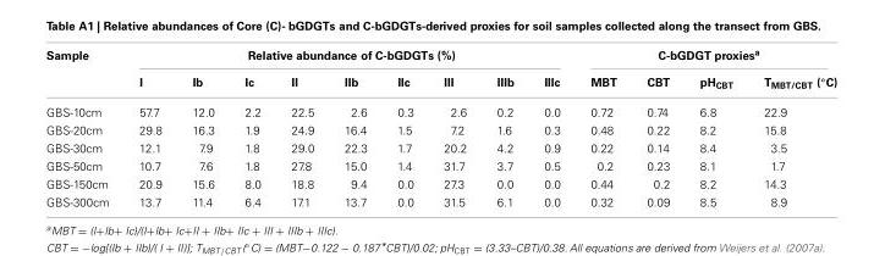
<table><thead><tr><td rowspan="2">Sample</td><td colspan="9">Relative abundance of C-bGDGTs (%)</td><td colspan="4">C-bGDGT proxies<sup>a</sup></td></tr><tr><td>I</td><td>Ib</td><td>Ic</td><td>II</td><td>IIb</td><td>IIc</td><td>III</td><td>IIIb</td><td>IIIc</td><td>MBT</td><td>CBT</td><td>pHCBT</td><td>TMBT/CBT (◦C)</td></tr></thead><tbody><tr><td>GBS-10cm</td><td>57.7</td><td>12.0</td><td>2.2</td><td>22.5</td><td>2.6</td><td>0.3</td><td>2.6</td><td>0.2</td><td>0.0</td><td>0.72</td><td>0.74</td><td>6.8</td><td>22.9</td></tr><tr><td>GBS-20cm</td><td>29.8</td><td>16.3</td><td>1.9</td><td>24.9</td><td>16.4</td><td>1.5</td><td>7.2</td><td>1.6</td><td>0.3</td><td>0.48</td><td>0.22</td><td>8.2</td><td>15.8</td></tr><tr><td>GBS-30cm</td><td>12.1</td><td>7.9</td><td>1.8</td><td>29.0</td><td>22.3</td><td>1.7</td><td>20.2</td><td>4.2</td><td>0.9</td><td>0.22</td><td>0.14</td><td>8.4</td><td>3.5</td></tr><tr><td>GBS-50cm</td><td>10.7</td><td>7.6</td><td>1.8</td><td>27.8</td><td>15.0</td><td>1.4</td><td>31.7</td><td>3.7</td><td>0.5</td><td>0.2</td><td>0.23</td><td>8.1</td><td>1.7</td></tr><tr><td>GBS-150cm</td><td>20.9</td><td>15.6</td><td>8.0</td><td>18.8</td><td>9.4</td><td>0.0</td><td>27.3</td><td>0.0</td><td>0.0</td><td>0.44</td><td>0.2</td><td>8.2</td><td>14.3</td></tr><tr><td>GBS-300cm</td><td>13.7</td><td>11.4</td><td>6.4</td><td>17.1</td><td>13.7</td><td>0.0</td><td>31.5</td><td>6.1</td><td>0.0</td><td>0.32</td><td>0.09</td><td>8.5</td><td>8.9</td></tr></tbody></table>